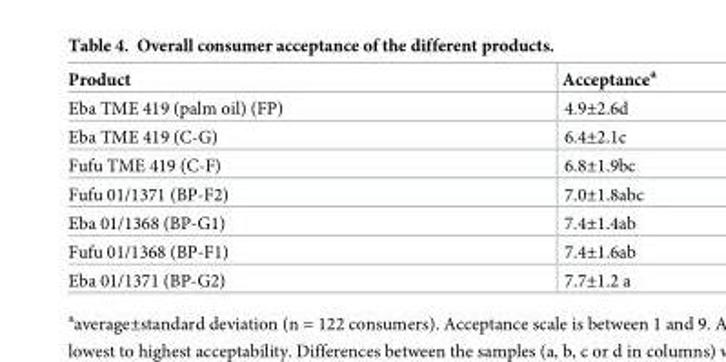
<table><thead><tr><td>Product</td><td>Acceptance<sup>a</sup></td></tr></thead><tbody><tr><td>Eba TME 419 (palm oil) (FP)</td><td>4.9±2.6d</td></tr><tr><td>Eba TME 419 (C-G)</td><td>6.4±2.1c</td></tr><tr><td>Fufu TME 419 (C-F)</td><td>6.8±1.9bc</td></tr><tr><td>Fufu 01/1371 (BP-F2)</td><td>7.0±1.8abc</td></tr><tr><td>Eba 01/1368 (BP-G1)</td><td>7.4±1.4ab</td></tr><tr><td>Fufu 01/1368 (BP-F1)</td><td>7.4±1.6ab</td></tr><tr><td>Eba 01/1371 (BP-G2)</td><td>7.7±1.2 a</td></tr></tbody></table>